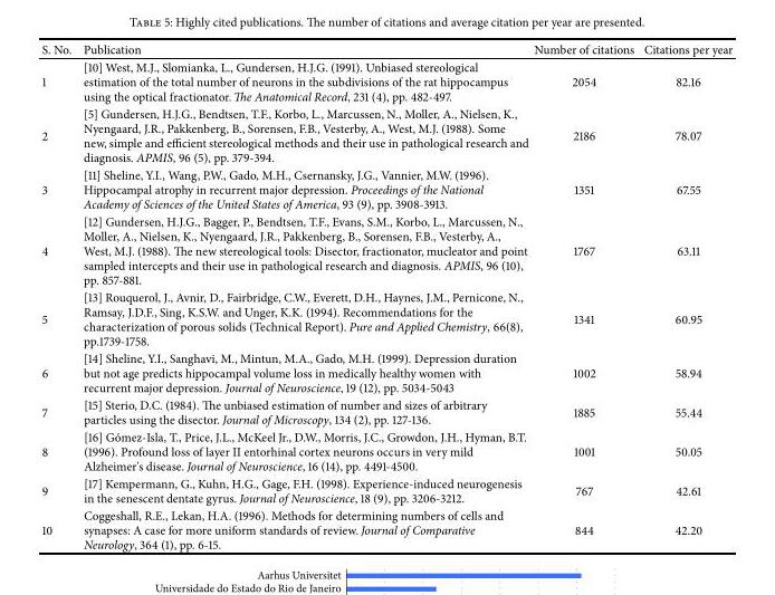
<table><thead><tr><td>S. No.</td><td>Publication</td><td>Number of citations</td><td>Citations per year</td></tr></thead><tbody><tr><td>1</td><td>[10] West, M.J., Slomianka, L., Gundersen, H.J.G. (1991). Unbiased stereological estimation of the total number of neurons in the subdivisions of the rat hippocampus using the optical fractionator. The Anatomical Record, 231 (4), pp. 482-497.</td><td>2054</td><td>82.16</td></tr><tr><td>2</td><td>[5] Gundersen, H.J.G., Bendtsen, T.F., Korbo, L., Marcussen, N., Moller, A., Nielsen, K., Nyengaard, J.R., Pakkenberg, B., Sorensen, F.B., Vesterby, A., West, M.J. (1988). Some new, simple and efficient stereological methods and their use in pathological research and diagnosis. APMIS, 96 (5), pp. 379-394.</td><td>2186</td><td>78.07</td></tr><tr><td>3</td><td>[11] Sheline, Y.I., Wang, P.W., Gado, M.H., Csernansky, J.G., Vannier, M.W. (1996). Hippocampal atrophy in recurrent major depression. Proceedings of the National Academy of Sciences of the United States of America, 93 (9), pp. 3908-3913.</td><td>1351</td><td>67.55</td></tr><tr><td>4</td><td>[12] Gundersen, H.J.G., Bagger, P., Bendtsen, T.F., Evans, S.M., Korbo, L., Marcussen, N., Moller, A., Nielsen, K., Nyengaard, J.R., Pakkenberg, B., Sorensen, F.B., Vesterby, A., West, M.J. (1988). The new stereological tools: Disector, fractionator, mucleator and point sampled intercepts and their use in pathological research and diagnosis. APMIS, 96 (10), pp. 857-881.</td><td>1767</td><td>63.11</td></tr><tr><td>5</td><td>[13] Rouquerol, J., Avnir, D., Fairbridge, C.W., Everett, D.H., Haynes, J.M., Pernicone, N., Ramsay, J.D.F., Sing, K.S.W. and Unger, K.K. (1994). Recommendations for the characterization of porous solids (Technical Report). Pure and Applied Chemistry, 66(8), pp.1739-1758.</td><td>1341</td><td>60.95</td></tr><tr><td>6</td><td>[14] Sheline, Y.I., Sanghavi, M., Mintun, M.A., Gado, M.H. (1999). Depression duration but not age predicts hippocampal volume loss in medically healthy women with recurrent major depression. Journal of Neuroscience, 19 (12), pp. 5034-5043</td><td>1002</td><td>58.94</td></tr><tr><td>7</td><td>[15] Sterio, D.C. (1984). The unbiased estimation of number and sizes of arbitrary particles using the disector. Journal of Microscopy, 134 (2), pp. 127-136.</td><td>1885</td><td>55.44</td></tr><tr><td>8</td><td>[16] G´omez-Isla, T., Price, J.L., McKeel Jr., D.W., Morris, J.C., Growdon, J.H., Hyman, B.T. (1996). Profound loss of layer II entorhinal cortex neurons occurs in very mild Alzheimer&#x27;s disease. Journal of Neuroscience, 16 (14), pp. 4491-4500.</td><td>1001</td><td>50.05</td></tr><tr><td>9</td><td>[17] Kempermann, G., Kuhn, H.G., Gage, F.H. (1998). Experience-induced neurogenesis in the senescent dentate gyrus. Journal of Neuroscience, 18 (9), pp. 3206-3212.</td><td>767</td><td>42.61</td></tr><tr><td>10</td><td>Coggeshall, R.E., Lekan, H.A. (1996). Methods for determining numbers of cells and synapses: A case for more uniform standards of review. Journal of Comparative Neurology, 364 (1), pp. 6-15.</td><td>844</td><td>42.20</td></tr></tbody></table>